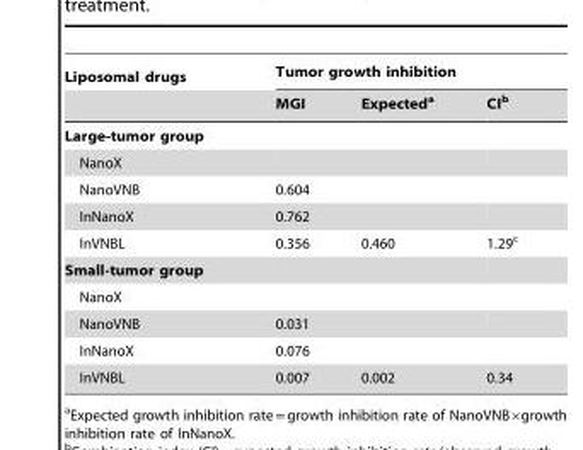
<table><thead><tr><td rowspan="2">Liposomal drugs</td><td colspan="3">Tumor growth inhibition</td></tr><tr><td>MGI</td><td>Expected<sup>a</sup></td><td>CI<sup>b</sup></td></tr></thead><tbody><tr><td colspan="4">Large-tumor group</td></tr><tr><td colspan="4">NanoX</td></tr><tr><td>NanoVNB</td><td>0.604</td><td></td><td></td></tr><tr><td>InNanoX</td><td>0.762</td><td></td><td></td></tr><tr><td>InVNBL</td><td>0.356</td><td>0.460</td><td>1.29<sup>c</sup></td></tr><tr><td colspan="4">Small-tumor group</td></tr><tr><td colspan="4">NanoX</td></tr><tr><td>NanoVNB</td><td>0.031</td><td></td><td></td></tr><tr><td>InNanoX</td><td>0.076</td><td></td><td></td></tr><tr><td>InVNBL</td><td>0.007</td><td>0.002</td><td>0.34</td></tr></tbody></table>